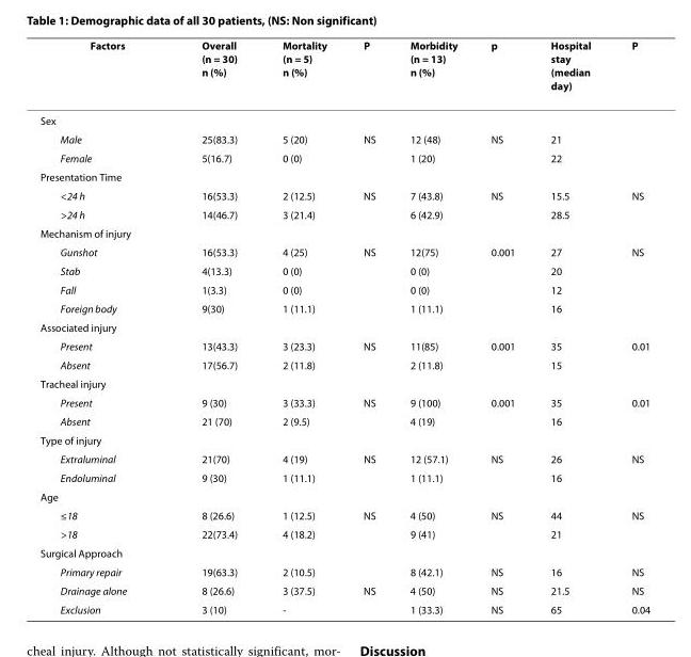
<table><thead><tr><td>Factors</td><td>Overall (n = 30) n (%)</td><td>Mortality (n = 5) n (%)</td><td>P</td><td>Morbidity (n = 13) n (%)</td><td>p</td><td>Hospital stay (median day)</td><td>P</td></tr></thead><tbody><tr><td colspan="8">Sex</td></tr><tr><td>Male</td><td>25(83.3)</td><td>5 (20)</td><td>NS</td><td>12 (48)</td><td>NS</td><td>21</td><td></td></tr><tr><td>Female</td><td>5(16.7)</td><td>0 (0)</td><td></td><td>1 (20)</td><td></td><td>22</td><td></td></tr><tr><td colspan="8">Presentation Time</td></tr><tr><td>&lt;24 h</td><td>16(53.3)</td><td>2 (12.5)</td><td>NS</td><td>7 (43.8)</td><td>NS</td><td>15.5</td><td>NS</td></tr><tr><td>&gt;24 h</td><td>14(46.7)</td><td>3 (21.4)</td><td></td><td>6 (42.9)</td><td></td><td>28.5</td><td></td></tr><tr><td colspan="8">Mechanism of injury</td></tr><tr><td>Gunshot</td><td>16(53.3)</td><td>4 (25)</td><td>NS</td><td>12(75)</td><td>0.001</td><td>27</td><td>NS</td></tr><tr><td>Stab</td><td>4(13.3)</td><td>0 (0)</td><td></td><td>0 (0)</td><td></td><td>20</td><td></td></tr><tr><td>Fall</td><td>1(3.3)</td><td>0 (0)</td><td></td><td>0 (0)</td><td></td><td>12</td><td></td></tr><tr><td>Foreign body</td><td>9(30)</td><td>1 (11.1)</td><td></td><td>1 (11.1)</td><td></td><td>16</td><td></td></tr><tr><td colspan="8">Associated injury</td></tr><tr><td>Present</td><td>13(43.3)</td><td>3 (23.3)</td><td>NS</td><td>11(85)</td><td>0.001</td><td>35</td><td>0.01</td></tr><tr><td>Absent</td><td>17(56.7)</td><td>2 (11.8)</td><td></td><td>2 (11.8)</td><td></td><td>15</td><td></td></tr><tr><td colspan="8">Tracheal injury</td></tr><tr><td>Present</td><td>9 (30)</td><td>3 (33.3)</td><td>NS</td><td>9 (100)</td><td>0.001</td><td>35</td><td>0.01</td></tr><tr><td>Absent</td><td>21 (70)</td><td>2 (9.5)</td><td></td><td>4 (19)</td><td></td><td>16</td><td></td></tr><tr><td colspan="8">Type of injury</td></tr><tr><td>Extraluminal</td><td>21(70)</td><td>4 (19)</td><td>NS</td><td>12 (57.1)</td><td>NS</td><td>26</td><td>NS</td></tr><tr><td>Endoluminal</td><td>9 (30)</td><td>1 (11.1)</td><td></td><td>1 (11.1)</td><td></td><td>16</td><td></td></tr><tr><td colspan="8">Age</td></tr><tr><td>≤18</td><td>8 (26.6)</td><td>1 (12.5)</td><td>NS</td><td>4 (50)</td><td>NS</td><td>44</td><td>NS</td></tr><tr><td>&gt;18</td><td>22(73.4)</td><td>4 (18.2)</td><td></td><td>9 (41)</td><td></td><td>21</td><td></td></tr><tr><td colspan="8">Surgical Approach</td></tr><tr><td>Primary repair</td><td>19(63.3)</td><td>2 (10.5)</td><td></td><td>8 (42.1)</td><td>NS</td><td>16</td><td>NS</td></tr><tr><td>Drainage alone</td><td>8 (26.6)</td><td>3 (37.5)</td><td>NS</td><td>4 (50)</td><td>NS</td><td>21.5</td><td>NS</td></tr><tr><td>Exclusion</td><td>3 (10)</td><td>-</td><td></td><td>1 (33.3)</td><td>NS</td><td>65</td><td>0.04</td></tr></tbody></table>